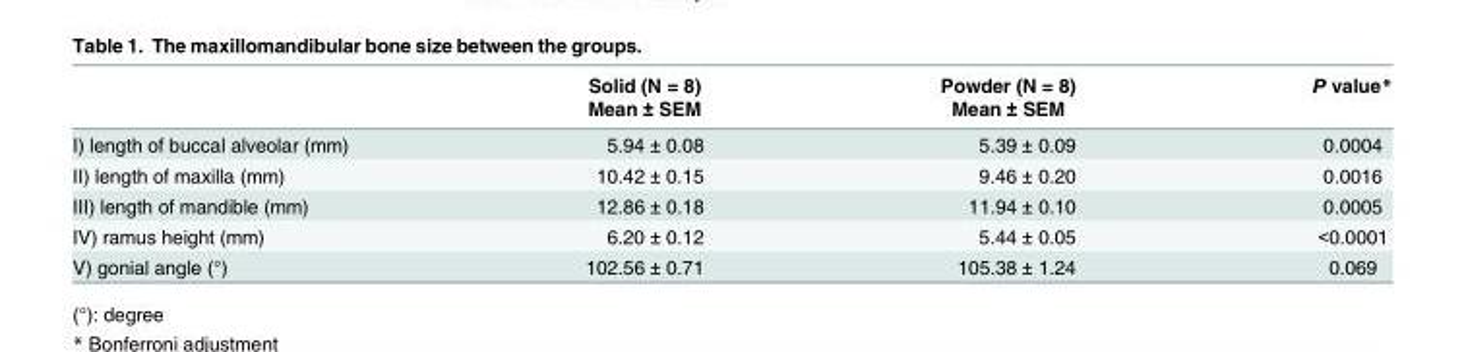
<table><thead><tr><td rowspan="2"></td><td rowspan="2">Solid (N = 8) Mean ± SEM</td><td rowspan="2">Powder (N = 8) Mean ± SEM</td><td rowspan="2">P value*</td></tr><tr></tr></thead><tbody><tr><td>I) length of buccal alveolar (mm)</td><td>5.94 ± 0.08</td><td>5.39 ± 0.09</td><td>0.0004</td></tr><tr><td>II) length of maxilla (mm)</td><td>10.42 ± 0.15</td><td>9.46 ± 0.20</td><td>0.0016</td></tr><tr><td>III) length of mandible (mm)</td><td>12.86 ± 0.18</td><td>11.94 ± 0.10</td><td>0.0005</td></tr><tr><td>IV) ramus height (mm)</td><td>6.20 ± 0.12</td><td>5.44 ± 0.05</td><td>&lt;0.0001</td></tr><tr><td>V) gonial angle (°)</td><td>102.56 ± 0.71</td><td>105.38 ± 1.24</td><td>0.069</td></tr></tbody></table>